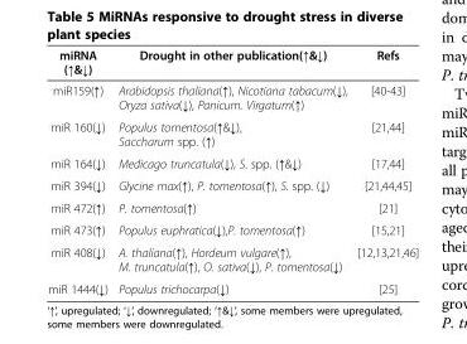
<table><thead><tr><td>miRNA (↑&amp;↓)</td><td>Drought in other publication(↑&amp;↓)</td><td>Refs</td></tr></thead><tbody><tr><td>miR159(↑)</td><td>Arabidopsis thaliana(↑), Nicotiana tabacum(↓), Oryza sativa(↓), Panicum. Virgatum(↑)</td><td>[40-43]</td></tr><tr><td>miR 160(↓)</td><td>Populus tomentosa(↑&amp;↓), Saccharum spp. (↑)</td><td>[21,44]</td></tr><tr><td>miR 164(↓)</td><td>Medicago truncatula(↓), S. spp. (↑&amp;↓)</td><td>[17,44]</td></tr><tr><td>miR 394(↓)</td><td>Glycine max(↑), P. tomentosa(↑), S. spp. (↓)</td><td>[21,44,45]</td></tr><tr><td>miR 472(↑)</td><td>P. tomentosa(↑)</td><td>[21]</td></tr><tr><td>miR 473(↑)</td><td>Populus euphratica(↓),P. tomentosa(↑)</td><td>[15,21]</td></tr><tr><td>miR 408(↓)</td><td>A. thaliana(↑), Hordeum vulgare(↑), M. truncatula(↑), O. sativa(↓), P. tomentosa(↓)</td><td>[12,13,21,46]</td></tr><tr><td>miR 1444(↓)</td><td>Populus trichocarpa(↓)</td><td>[25]</td></tr></tbody></table>